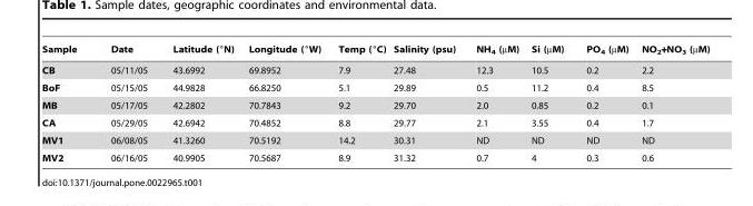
<table><thead><tr><td>Sample</td><td>Date</td><td>Latitude (°N)</td><td>Longitude (°W)</td><td>Temp (°C)</td><td>Salinity (psu)</td><td>NH<sub>4</sub> (µM)</td><td>Si (µM)</td><td>PO<sub>4</sub> (µM)</td><td>NO<sub>2</sub>+NO<sub>3</sub> (µM)</td></tr></thead><tbody><tr><td>CB</td><td>05/11/05</td><td>43.6992</td><td>69.8952</td><td>7.9</td><td>27.48</td><td>12.3</td><td>10.5</td><td>0.2</td><td>2.2</td></tr><tr><td>BoF</td><td>05/15/05</td><td>44.9828</td><td>66.8250</td><td>5.1</td><td>29.89</td><td>0.5</td><td>11.2</td><td>0.4</td><td>8.5</td></tr><tr><td>MB</td><td>05/17/05</td><td>42.2802</td><td>70.7843</td><td>9.2</td><td>29.70</td><td>2.0</td><td>0.85</td><td>0.2</td><td>0.1</td></tr><tr><td>CA</td><td>05/29/05</td><td>42.6942</td><td>70.4852</td><td>8.8</td><td>29.77</td><td>2.1</td><td>3.55</td><td>0.4</td><td>1.7</td></tr><tr><td>MV1</td><td>06/08/05</td><td>41.3260</td><td>70.5192</td><td>14.2</td><td>30.31</td><td>ND</td><td>ND</td><td>ND</td><td>ND</td></tr><tr><td>MV2</td><td>06/16/05</td><td>40.9905</td><td>70.5687</td><td>8.9</td><td>31.32</td><td>0.7</td><td>4</td><td>0.3</td><td>0.6</td></tr></tbody></table>